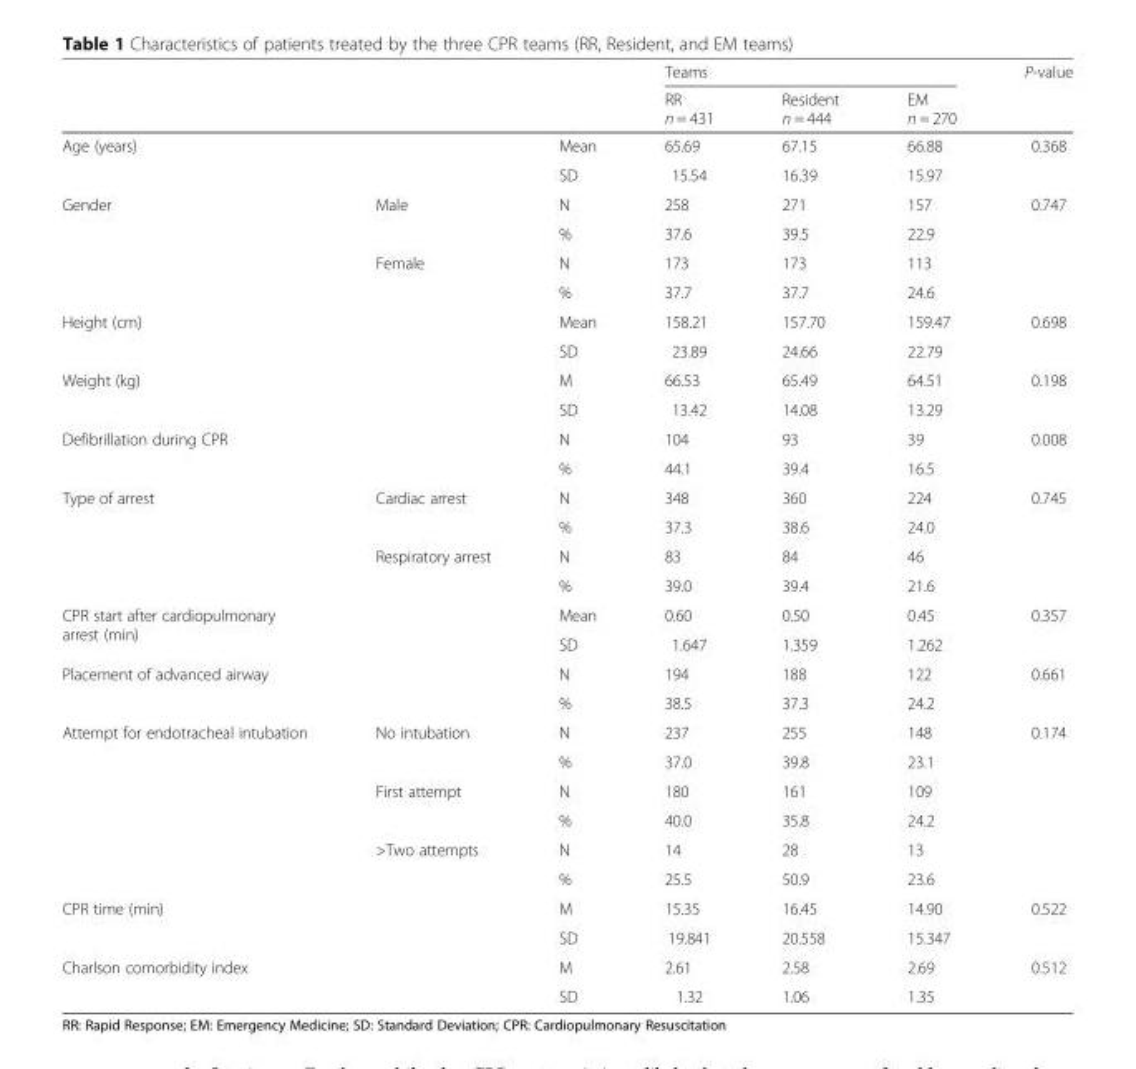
<table><thead><tr><td rowspan="2"></td><td rowspan="2"></td><td rowspan="2"></td><td colspan="3">Teams</td><td rowspan="2">P-value</td></tr><tr><td>RR n = 431</td><td>Resident n = 444</td><td>EM n = 270</td></tr></thead><tbody><tr><td rowspan="2" colspan="2">Age (years)</td><td>Mean</td><td>65.69</td><td>67.15</td><td>66.88</td><td rowspan="2">0.368</td></tr><tr><td>SD</td><td>15.54</td><td>16.39</td><td>15.97</td></tr><tr><td rowspan="4">Gender</td><td rowspan="2">Male</td><td>N</td><td>258</td><td>271</td><td>157</td><td rowspan="4">0.747</td></tr><tr><td>%</td><td>37.6</td><td>39.5</td><td>22.9</td></tr><tr><td rowspan="2">Female</td><td>N</td><td>173</td><td>173</td><td>113</td></tr><tr><td>%</td><td>37.7</td><td>37.7</td><td>24.6</td></tr><tr><td rowspan="2" colspan="2">Height (cm)</td><td>Mean</td><td>158.21</td><td>157.70</td><td>159.47</td><td rowspan="2">0.698</td></tr><tr><td>SD</td><td>23.89</td><td>24.66</td><td>22.79</td></tr><tr><td rowspan="2" colspan="2">Weight (kg)</td><td>M</td><td>66.53</td><td>65.49</td><td>64.51</td><td rowspan="2">0.198</td></tr><tr><td>SD</td><td>13.42</td><td>14.08</td><td>13.29</td></tr><tr><td rowspan="2">Defibrillation during CPR</td><td rowspan="2"></td><td>N</td><td>104</td><td>93</td><td>39</td><td rowspan="2">0.008</td></tr><tr><td>%</td><td>44.1</td><td>39.4</td><td>16.5</td></tr><tr><td rowspan="4">Type of arrest</td><td rowspan="2">Cardiac arrest</td><td>N</td><td>348</td><td>360</td><td>224</td><td rowspan="4">0.745</td></tr><tr><td>%</td><td>37.3</td><td>38.6</td><td>24.0</td></tr><tr><td rowspan="2">Respiratory arrest</td><td>N</td><td>83</td><td>84</td><td>46</td></tr><tr><td>%</td><td>39.0</td><td>39.4</td><td>21.6</td></tr><tr><td rowspan="2" colspan="2">CPR start after cardiopulmonary arrest (min)</td><td>Mean</td><td>0.60</td><td>0.50</td><td>0.45</td><td rowspan="2">0.357</td></tr><tr><td>SD</td><td>1.647</td><td>1.359</td><td>1.262</td></tr><tr><td rowspan="2">Placement of advanced airway</td><td rowspan="2"></td><td>N</td><td>194</td><td>188</td><td>122</td><td rowspan="2">0.661</td></tr><tr><td>%</td><td>38.5</td><td>37.3</td><td>24.2</td></tr><tr><td rowspan="6">Attempt for endotracheal intubation</td><td rowspan="2">No intubation</td><td>N</td><td>237</td><td>255</td><td>148</td><td rowspan="6">0.174</td></tr><tr><td>%</td><td>37.0</td><td>39.8</td><td>23.1</td></tr><tr><td rowspan="2">First attempt</td><td>N</td><td>180</td><td>161</td><td>109</td></tr><tr><td>%</td><td>40.0</td><td>35.8</td><td>24.2</td></tr><tr><td rowspan="2">&gt;Two attempts</td><td>N</td><td>14</td><td>28</td><td>13</td></tr><tr><td>%</td><td>25.5</td><td>50.9</td><td>23.6</td></tr><tr><td rowspan="2" colspan="2">CPR time (min)</td><td>M</td><td>15.35</td><td>16.45</td><td>14.90</td><td rowspan="2">0.522</td></tr><tr><td>SD</td><td>19.841</td><td>20.558</td><td>15.347</td></tr><tr><td rowspan="2" colspan="2">Charlson comorbidity index</td><td>M</td><td>2.61</td><td>2.58</td><td>2.69</td><td rowspan="2">0.512</td></tr><tr><td>SD</td><td>1.32</td><td>1.06</td><td>1.35</td></tr></tbody></table>